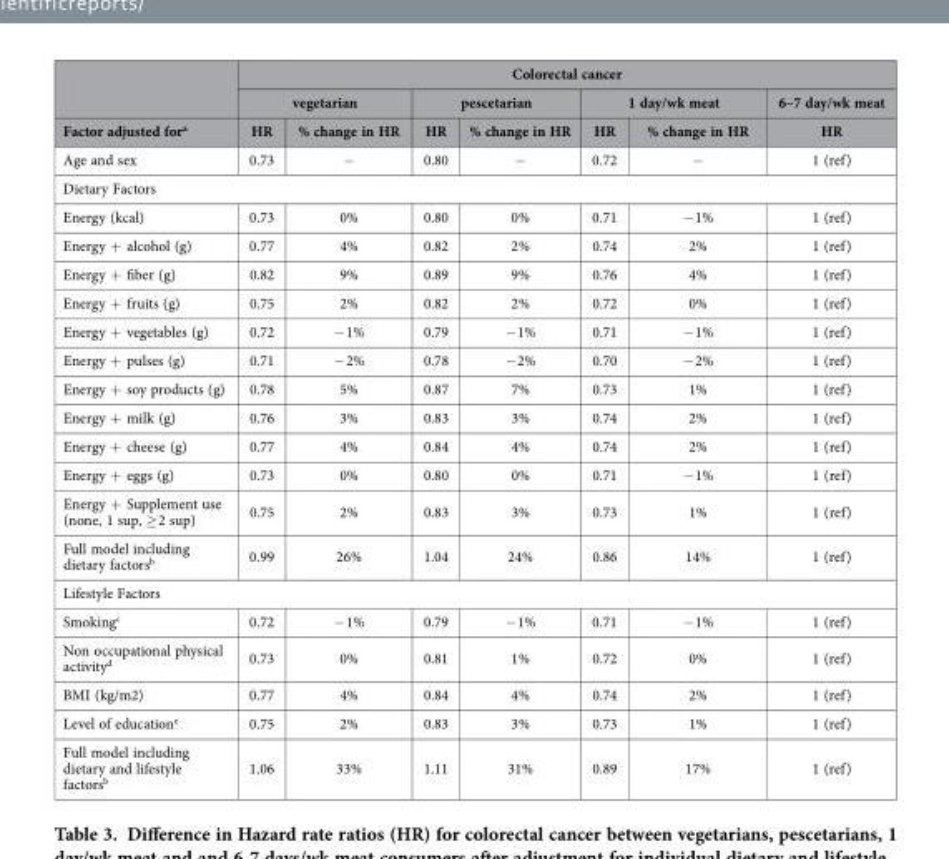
<table><thead><tr><td rowspan="3">Factor adjusted for<sup>a</sup></td><td colspan="7">Colorectal cancer</td></tr><tr><td colspan="2">vegetarian</td><td colspan="2">pescetarian</td><td colspan="2">1 day/wk meat</td><td rowspan="2">6–7 day/wk meat HR</td></tr><tr><td>HR</td><td>% change in HR</td><td>HR</td><td>% change in HR</td><td>HR</td><td>% change in HR</td></tr></thead><tbody><tr><td>Age and sex</td><td>0.73</td><td>−</td><td>0.80</td><td>−</td><td>0.72</td><td>−</td><td>1 (ref)</td></tr><tr><td colspan="8">Dietary Factors</td></tr><tr><td>Energy (kcal)</td><td>0.73</td><td>0%</td><td>0.80</td><td>0%</td><td>0.71</td><td>− 1%</td><td>1 (ref)</td></tr><tr><td>Energy + alcohol (g)</td><td>0.77</td><td>4%</td><td>0.82</td><td>2%</td><td>0.74</td><td>2%</td><td>1 (ref)</td></tr><tr><td>Energy + fiber (g)</td><td>0.82</td><td>9%</td><td>0.89</td><td>9%</td><td>0.76</td><td>4%</td><td>1 (ref)</td></tr><tr><td>Energy + fruits (g)</td><td>0.75</td><td>2%</td><td>0.82</td><td>2%</td><td>0.72</td><td>0%</td><td>1 (ref)</td></tr><tr><td>Energy + vegetables (g)</td><td>0.72</td><td>− 1%</td><td>0.79</td><td>− 1%</td><td>0.71</td><td>− 1%</td><td>1 (ref)</td></tr><tr><td>Energy + pulses (g)</td><td>0.71</td><td>− 2%</td><td>0.78</td><td>− 2%</td><td>0.70</td><td>− 2%</td><td>1 (ref)</td></tr><tr><td>Energy + soy products (g)</td><td>0.78</td><td>5%</td><td>0.87</td><td>7%</td><td>0.73</td><td>1%</td><td>1 (ref)</td></tr><tr><td>Energy + milk (g)</td><td>0.76</td><td>3%</td><td>0.83</td><td>3%</td><td>0.74</td><td>2%</td><td>1 (ref)</td></tr><tr><td>Energy + cheese (g)</td><td>0.77</td><td>4%</td><td>0.84</td><td>4%</td><td>0.74</td><td>2%</td><td>1 (ref)</td></tr><tr><td>Energy + eggs (g)</td><td>0.73</td><td>0%</td><td>0.80</td><td>0%</td><td>0.71</td><td>− 1%</td><td>1 (ref)</td></tr><tr><td>Energy + Supplement use (none, 1 sup, ≥ 2 sup)</td><td>0.75</td><td>2%</td><td>0.83</td><td>3%</td><td>0.73</td><td>1%</td><td>1 (ref)</td></tr><tr><td>Full model including dietary factors<sup>b</sup></td><td>0.99</td><td>26%</td><td>1.04</td><td>24%</td><td>0.86</td><td>14%</td><td>1 (ref)</td></tr><tr><td colspan="8">Lifestyle Factors</td></tr><tr><td>Smoking<sup>c</sup></td><td>0.72</td><td>− 1%</td><td>0.79</td><td>− 1%</td><td>0.71</td><td>− 1%</td><td>1 (ref)</td></tr><tr><td>Non occupational physical activity<sup>d</sup></td><td>0.73</td><td>0%</td><td>0.81</td><td>1%</td><td>0.72</td><td>0%</td><td>1 (ref)</td></tr><tr><td>BMI (kg/m2)</td><td>0.77</td><td>4%</td><td>0.84</td><td>4%</td><td>0.74</td><td>2%</td><td>1 (ref)</td></tr><tr><td>Level of education<sup>e</sup></td><td>0.75</td><td>2%</td><td>0.83</td><td>3%</td><td>0.73</td><td>1%</td><td>1 (ref)</td></tr><tr><td>Full model including dietary and lifestyle factors<sup>b</sup></td><td>1.06</td><td>33%</td><td>1.11</td><td>31%</td><td>0.89</td><td>17%</td><td>1 (ref)</td></tr></tbody></table>